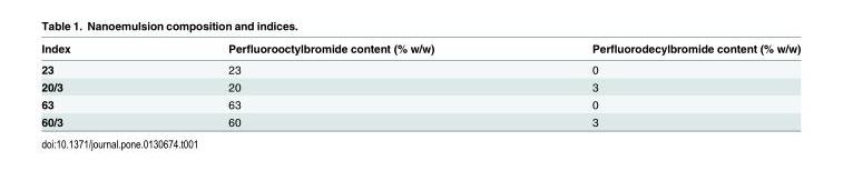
<table><thead><tr><td>Index</td><td>Perfluorooctylbromide content (% w/w)</td><td>Perfluorodecylbromide content (% w/w)</td></tr></thead><tbody><tr><td>23</td><td>23</td><td>0</td></tr><tr><td>20/3</td><td>20</td><td>3</td></tr><tr><td>63</td><td>63</td><td>0</td></tr><tr><td>60/3</td><td>60</td><td>3</td></tr></tbody></table>